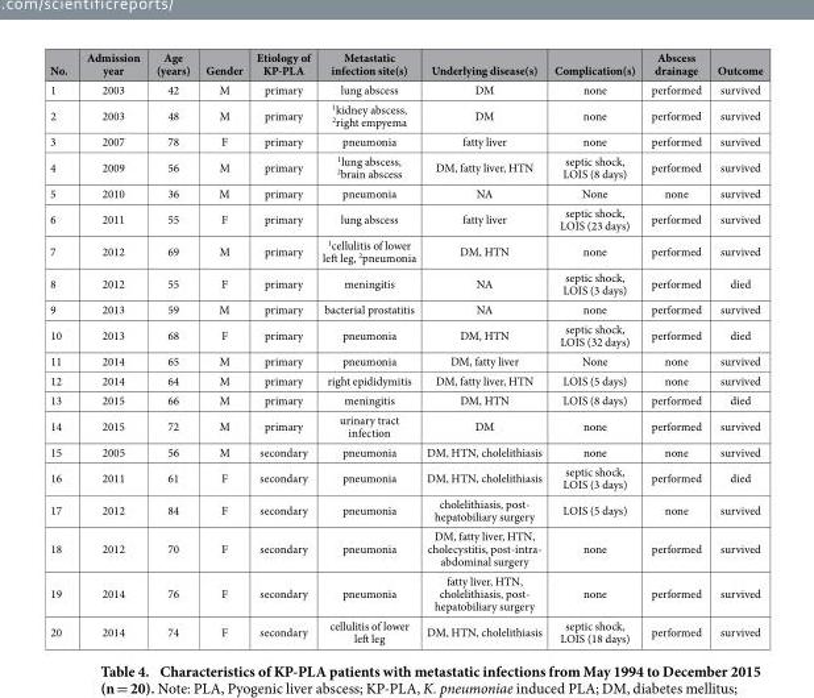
<table><thead><tr><td>No.</td><td>Admission year</td><td>Age (years)</td><td>Gender</td><td>Etiology of KP-PLA</td><td>Metastatic infection site(s)</td><td>Underlying disease(s)</td><td>Complication(s)</td><td>Abscess drainage</td><td>Outcome</td></tr></thead><tbody><tr><td>1</td><td>2003</td><td>42</td><td>M</td><td>primary</td><td>lung abscess</td><td>DM</td><td>none</td><td>performed</td><td>survived</td></tr><tr><td>2</td><td>2003</td><td>48</td><td>M</td><td>primary</td><td><sup>1</sup>kidney abscess, <sup>2</sup>right empyema</td><td>DM</td><td>none</td><td>performed</td><td>survived</td></tr><tr><td>3</td><td>2007</td><td>78</td><td>F</td><td>primary</td><td>pneumonia</td><td>fatty liver</td><td>none</td><td>performed</td><td>survived</td></tr><tr><td>4</td><td>2009</td><td>56</td><td>M</td><td>primary</td><td><sup>1</sup>lung abscess, <sup>2</sup>brain abscess</td><td>DM, fatty liver, HTN</td><td>septic shock, LOIS (8 days)</td><td>performed</td><td>survived</td></tr><tr><td>5</td><td>2010</td><td>36</td><td>M</td><td>primary</td><td>pneumonia</td><td>NA</td><td>None</td><td>none</td><td>survived</td></tr><tr><td>6</td><td>2011</td><td>55</td><td>F</td><td>primary</td><td>lung abscess</td><td>fatty liver</td><td>septic shock, LOIS (23 days)</td><td>performed</td><td>survived</td></tr><tr><td>7</td><td>2012</td><td>69</td><td>M</td><td>primary</td><td><sup>1</sup>cellulitis of lower left leg, <sup>2</sup>pneumonia</td><td>DM, HTN</td><td>none</td><td>performed</td><td>survived</td></tr><tr><td>8</td><td>2012</td><td>55</td><td>F</td><td>primary</td><td>meningitis</td><td>NA</td><td>septic shock, LOIS (3 days)</td><td>performed</td><td>died</td></tr><tr><td>9</td><td>2013</td><td>59</td><td>M</td><td>primary</td><td>bacterial prostatitis</td><td>NA</td><td>none</td><td>performed</td><td>survived</td></tr><tr><td>10</td><td>2013</td><td>68</td><td>F</td><td>primary</td><td>pneumonia</td><td>DM, HTN</td><td>septic shock, LOIS (32 days)</td><td>performed</td><td>died</td></tr><tr><td>11</td><td>2014</td><td>65</td><td>M</td><td>primary</td><td>pneumonia</td><td>DM, fatty liver</td><td>None</td><td>none</td><td>survived</td></tr><tr><td>12</td><td>2014</td><td>64</td><td>M</td><td>primary</td><td>right epididymitis</td><td>DM, fatty liver, HTN</td><td>LOIS (5 days)</td><td>none</td><td>survived</td></tr><tr><td>13</td><td>2015</td><td>66</td><td>M</td><td>primary</td><td>meningitis</td><td>DM, HTN</td><td>LOIS (8 days)</td><td>performed</td><td>died</td></tr><tr><td>14</td><td>2015</td><td>72</td><td>M</td><td>primary</td><td>urinary tract infection</td><td>DM</td><td>none</td><td>performed</td><td>survived</td></tr><tr><td>15</td><td>2005</td><td>56</td><td>M</td><td>secondary</td><td>pneumonia</td><td>DM, HTN, cholelithiasis</td><td>none</td><td>none</td><td>survived</td></tr><tr><td>16</td><td>2011</td><td>61</td><td>F</td><td>secondary</td><td>pneumonia</td><td>DM, HTN, cholelithiasis</td><td>septic shock, LOIS (3 days)</td><td>performed</td><td>died</td></tr><tr><td>17</td><td>2012</td><td>84</td><td>F</td><td>secondary</td><td>pneumonia</td><td>cholelithiasis, post- hepatobiliary surgery</td><td>LOIS (5 days)</td><td>none</td><td>survived</td></tr><tr><td>18</td><td>2012</td><td>70</td><td>F</td><td>secondary</td><td>pneumonia</td><td>DM, fatty liver, HTN, cholecystitis, post-intra- abdominal surgery</td><td>none</td><td>performed</td><td>survived</td></tr><tr><td>19</td><td>2014</td><td>76</td><td>F</td><td>secondary</td><td>pneumonia</td><td>fatty liver, HTN, cholelithiasis, post- hepatobiliary surgery</td><td>none</td><td>performed</td><td>survived</td></tr><tr><td>20</td><td>2014</td><td>74</td><td>F</td><td>secondary</td><td>cellulitis of lower left leg</td><td>DM, HTN, cholelithiasis</td><td>septic shock, LOIS (18 days)</td><td>performed</td><td>survived</td></tr></tbody></table>